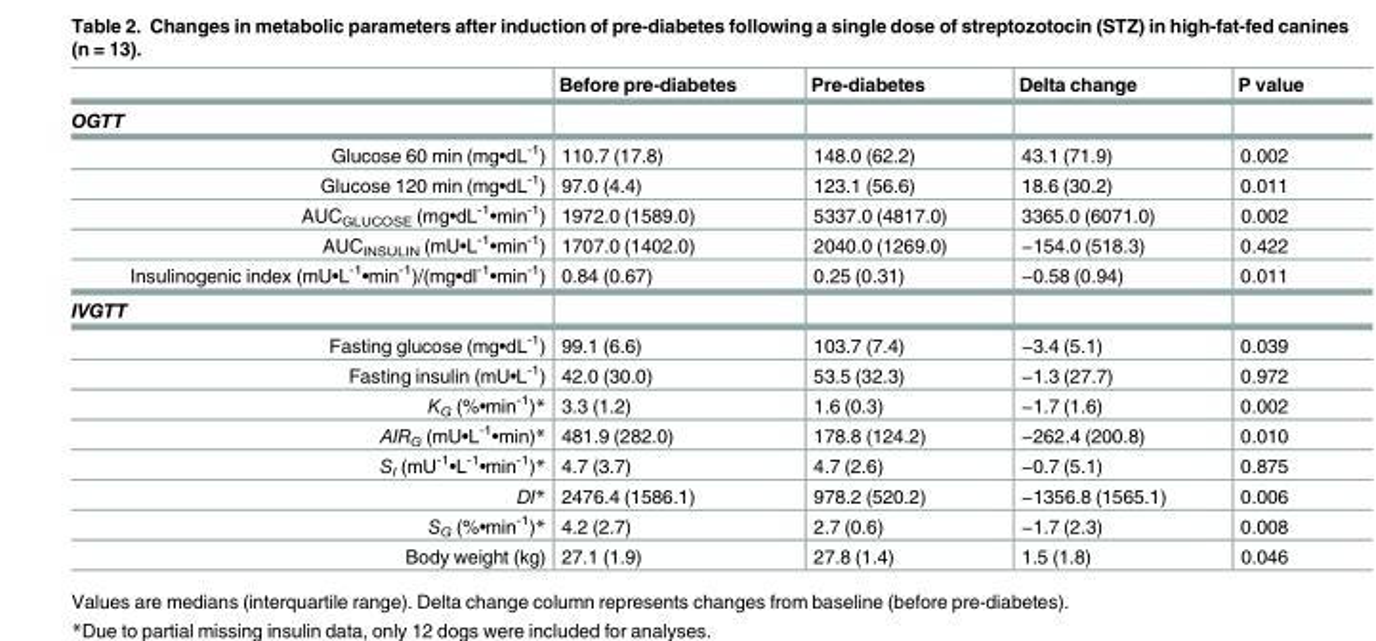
<table><thead><tr><td></td><td>Before pre-diabetes</td><td>Pre-diabetes</td><td>Delta change</td><td>P value</td></tr></thead><tbody><tr><td colspan="5">OGTT</td></tr><tr><td>Glucose 60 min (mg•dL<sup>-1</sup>)</td><td>110.7 (17.8)</td><td>148.0 (62.2)</td><td>43.1 (71.9)</td><td>0.002</td></tr><tr><td>Glucose 120 min (mg•dL<sup>-1</sup>)</td><td>97.0 (4.4)</td><td>123.1 (56.6)</td><td>18.6 (30.2)</td><td>0.011</td></tr><tr><td>AUC<sub>GLUCOSE</sub> (mg•dL<sup>-1</sup>•min<sup>-1</sup>)</td><td>1972.0 (1589.0)</td><td>5337.0 (4817.0)</td><td>3365.0 (6071.0)</td><td>0.002</td></tr><tr><td>AUC<sub>INSULIN</sub> (mU•L<sup>-1</sup>•min<sup>-1</sup>)</td><td>1707.0 (1402.0)</td><td>2040.0 (1269.0)</td><td>−154.0 (518.3)</td><td>0.422</td></tr><tr><td>Insulinogenic index (mU•L<sup>-1</sup>•min<sup>-1</sup>)/(mg•dl<sup>-1</sup>•min<sup>-1</sup>)</td><td>0.84 (0.67)</td><td>0.25 (0.31)</td><td>−0.58 (0.94)</td><td>0.011</td></tr><tr><td colspan="5">IVGTT</td></tr><tr><td>Fasting glucose (mg•dL<sup>-1</sup>)</td><td>99.1 (6.6)</td><td>103.7 (7.4)</td><td>−3.4 (5.1)</td><td>0.039</td></tr><tr><td>Fasting insulin (mU•L<sup>-1</sup>)</td><td>42.0 (30.0)</td><td>53.5 (32.3)</td><td>−1.3 (27.7)</td><td>0.972</td></tr><tr><td>K<sub>G</sub> (%•min<sup>-1</sup>)*</td><td>3.3 (1.2)</td><td>1.6 (0.3)</td><td>−1.7 (1.6)</td><td>0.002</td></tr><tr><td>AIR<sub>G</sub> (mU•L<sup>-1</sup>•min)*</td><td>481.9 (282.0)</td><td>178.8 (124.2)</td><td>−262.4 (200.8)</td><td>0.010</td></tr><tr><td>S<sub>I</sub> (mU<sup>-1</sup>•L<sup>-1</sup>•min<sup>-1</sup>)*</td><td>4.7 (3.7)</td><td>4.7 (2.6)</td><td>−0.7 (5.1)</td><td>0.875</td></tr><tr><td>DI*</td><td>2476.4 (1586.1)</td><td>978.2 (520.2)</td><td>−1356.8 (1565.1)</td><td>0.006</td></tr><tr><td>S<sub>G</sub> (%•min<sup>-1</sup>)*</td><td>4.2 (2.7)</td><td>2.7 (0.6)</td><td>−1.7 (2.3)</td><td>0.008</td></tr><tr><td>Body weight (kg)</td><td>27.1 (1.9)</td><td>27.8 (1.4)</td><td>1.5 (1.8)</td><td>0.046</td></tr></tbody></table>